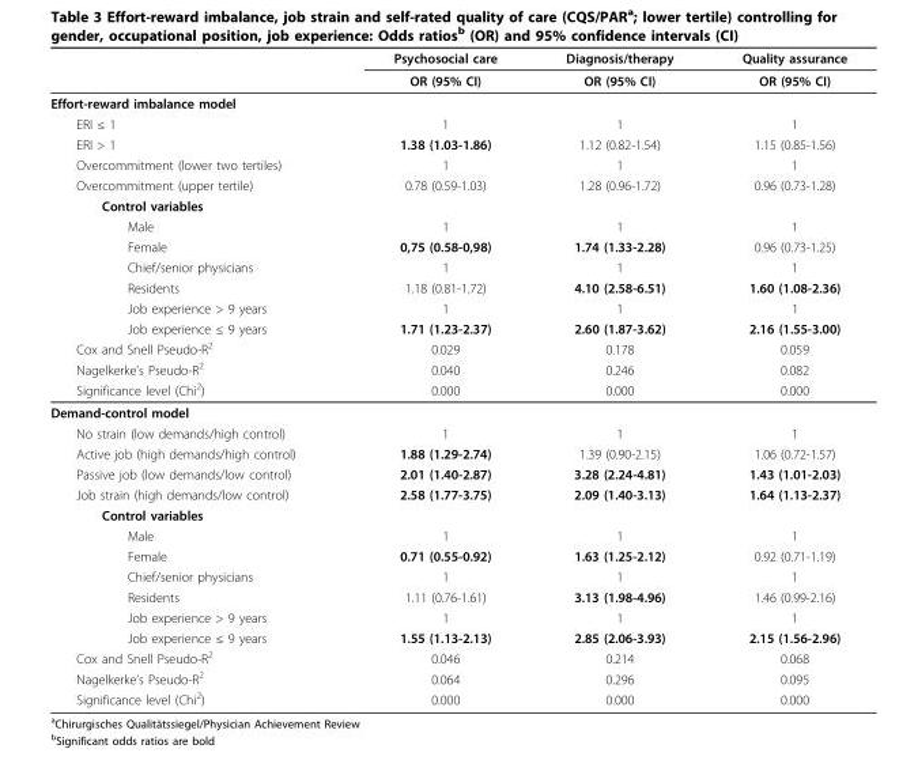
<table><thead><tr><td rowspan="2"></td><td rowspan="2">Psychosocial care OR (95% CI)</td><td rowspan="2">Diagnosis/therapy OR (95% CI)</td><td rowspan="2">Quality assurance OR (95% CI)</td></tr><tr></tr></thead><tbody><tr><td colspan="4">Effort-reward imbalance model</td></tr><tr><td>ERI ≤ 1</td><td>1</td><td>1</td><td>1</td></tr><tr><td>ERI &gt; 1</td><td>1.38 (1.03-1.86)</td><td>1.12 (0.82-1.54)</td><td>1.15 (0.85-1.56)</td></tr><tr><td>Overcommitment (lower two tertiles)</td><td>1</td><td>1</td><td>1</td></tr><tr><td>Overcommitment (upper tertile)</td><td>0.78 (0.59-1.03)</td><td>1.28 (0.96-1.72)</td><td>0.96 (0.73-1.28)</td></tr><tr><td colspan="4">Control variables</td></tr><tr><td>Male</td><td>1</td><td>1</td><td>1</td></tr><tr><td>Female</td><td>0,75 (0.58-0,98)</td><td>1.74 (1.33-2.28)</td><td>0.96 (0.73-1.25)</td></tr><tr><td>Chief/senior physicians</td><td>1</td><td>1</td><td>1</td></tr><tr><td>Residents</td><td>1.18 (0.81-1.72)</td><td>4.10 (2.58-6.51)</td><td>1.60 (1.08-2.36)</td></tr><tr><td>Job experience &gt; 9 years</td><td>1</td><td>1</td><td>1</td></tr><tr><td>Job experience ≤ 9 years</td><td>1.71 (1.23-2.37)</td><td>2.60 (1.87-3.62)</td><td>2.16 (1.55-3.00)</td></tr><tr><td>Cox and Snell Pseudo-R<sup>2</sup></td><td>0.029</td><td>0.178</td><td>0.059</td></tr><tr><td>Nagelkerke’s Pseudo-R<sup>2</sup></td><td>0.040</td><td>0.246</td><td>0.082</td></tr><tr><td>Significance level (Chi<sup>2</sup>)</td><td>0.000</td><td>0.000</td><td>0.000</td></tr><tr><td colspan="4">Demand-control model</td></tr><tr><td>No strain (low demands/high control)</td><td>1</td><td>1</td><td>1</td></tr><tr><td>Active job (high demands/high control)</td><td>1.88 (1.29-2.74)</td><td>1.39 (0.90-2.15)</td><td>1.06 (0.72-1.57)</td></tr><tr><td>Passive job (low demands/low control)</td><td>2.01 (1.40-2.87)</td><td>3.28 (2.24-4.81)</td><td>1.43 (1.01-2.03)</td></tr><tr><td>Job strain (high demands/low control)</td><td>2.58 (1.77-3.75)</td><td>2.09 (1.40-3.13)</td><td>1.64 (1.13-2.37)</td></tr><tr><td colspan="4">Control variables</td></tr><tr><td>Male</td><td>1</td><td>1</td><td>1</td></tr><tr><td>Female</td><td>0.71 (0.55-0.92)</td><td>1.63 (1.25-2.12)</td><td>0.92 (0.71-1.19)</td></tr><tr><td>Chief/senior physicians</td><td>1</td><td>1</td><td>1</td></tr><tr><td>Residents</td><td>1.11 (0.76-1.61)</td><td>3.13 (1.98-4.96)</td><td>1.46 (0.99-2.16)</td></tr><tr><td>Job experience &gt; 9 years</td><td>1</td><td>1</td><td>1</td></tr><tr><td>Job experience ≤ 9 years</td><td>1.55 (1.13-2.13)</td><td>2.85 (2.06-3.93)</td><td>2.15 (1.56-2.96)</td></tr><tr><td>Cox and Snell Pseudo-R<sup>2</sup></td><td>0.046</td><td>0.214</td><td>0.068</td></tr><tr><td>Nagelkerke’s Pseudo-R<sup>2</sup></td><td>0.064</td><td>0.296</td><td>0.095</td></tr><tr><td>Significance level (Chi<sup>2</sup>)</td><td>0.000</td><td>0.000</td><td>0.000</td></tr></tbody></table>